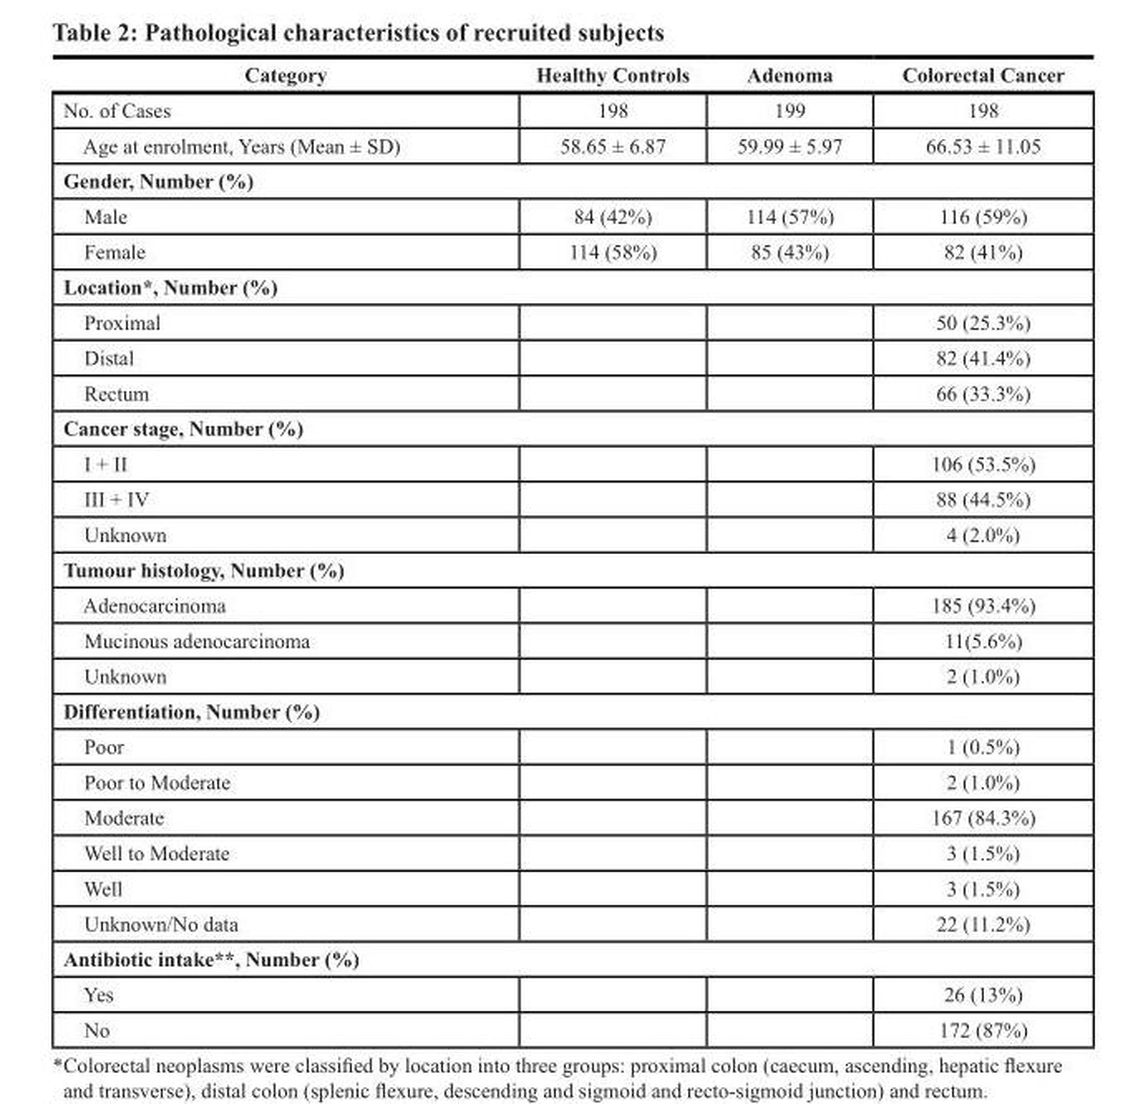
<table><thead><tr><td>Category</td><td>Healthy Controls</td><td>Adenoma</td><td>Colorectal Cancer</td></tr></thead><tbody><tr><td>No. of Cases</td><td>198</td><td>199</td><td>198</td></tr><tr><td>Age at enrolment, Years (Mean ± SD)</td><td>58.65 ± 6.87</td><td>59.99 ± 5.97</td><td>66.53 ± 11.05</td></tr><tr><td colspan="4">Gender, Number (%)</td></tr><tr><td>Male</td><td>84 (42%)</td><td>114 (57%)</td><td>116 (59%)</td></tr><tr><td>Female</td><td>114 (58%)</td><td>85 (43%)</td><td>82 (41%)</td></tr><tr><td colspan="4">Location*, Number (%)</td></tr><tr><td>Proximal</td><td></td><td></td><td>50 (25.3%)</td></tr><tr><td>Distal</td><td></td><td></td><td>82 (41.4%)</td></tr><tr><td>Rectum</td><td></td><td></td><td>66 (33.3%)</td></tr><tr><td colspan="4">Cancer stage, Number (%)</td></tr><tr><td>I + II</td><td></td><td></td><td>106 (53.5%)</td></tr><tr><td>III + IV</td><td></td><td></td><td>88 (44.5%)</td></tr><tr><td>Unknown</td><td></td><td></td><td>4 (2.0%)</td></tr><tr><td colspan="4">Tumour histology, Number (%)</td></tr><tr><td>Adenocarcinoma</td><td></td><td></td><td>185 (93.4%)</td></tr><tr><td>Mucinous adenocarcinoma</td><td></td><td></td><td>11(5.6%)</td></tr><tr><td>Unknown</td><td></td><td></td><td>2 (1.0%)</td></tr><tr><td colspan="4">Differentiation, Number (%)</td></tr><tr><td>Poor</td><td></td><td></td><td>1 (0.5%)</td></tr><tr><td>Poor to Moderate</td><td></td><td></td><td>2 (1.0%)</td></tr><tr><td>Moderate</td><td></td><td></td><td>167 (84.3%)</td></tr><tr><td>Well to Moderate</td><td></td><td></td><td>3 (1.5%)</td></tr><tr><td>Well</td><td></td><td></td><td>3 (1.5%)</td></tr><tr><td>Unknown/No data</td><td></td><td></td><td>22 (11.2%)</td></tr><tr><td colspan="4">Antibiotic intake**, Number (%)</td></tr><tr><td>Yes</td><td></td><td></td><td>26 (13%)</td></tr><tr><td>No</td><td></td><td></td><td>172 (87%)</td></tr></tbody></table>